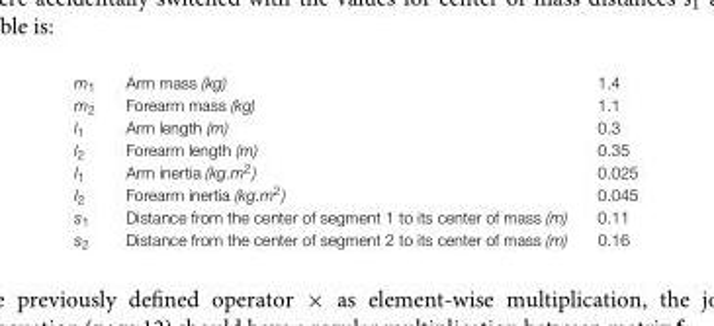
<table><tbody><tr><td>m<sub>1</sub></td><td>Arm mass (kg)</td><td>1.4</td></tr><tr><td>m<sub>2</sub></td><td>Forearm mass (kg)</td><td>1.1</td></tr><tr><td>l<sub>1</sub></td><td>Arm length (m)</td><td>0.3</td></tr><tr><td>l<sub>2</sub></td><td>Forearm length (m)</td><td>0.35</td></tr><tr><td>I<sub>1</sub></td><td>Arm inertia (kg.m<sup>2</sup>)</td><td>0.025</td></tr><tr><td>I<sub>2</sub></td><td>Forearm inertia (kg.m<sup>2</sup>)</td><td>0.045</td></tr><tr><td>s<sub>1</sub></td><td>Distance from the center of segment 1 to its center of mass (m)</td><td>0.11</td></tr><tr><td>s<sub>2</sub></td><td>Distance from the center of segment 2 to its center of mass (m)</td><td>0.16</td></tr></tbody></table>